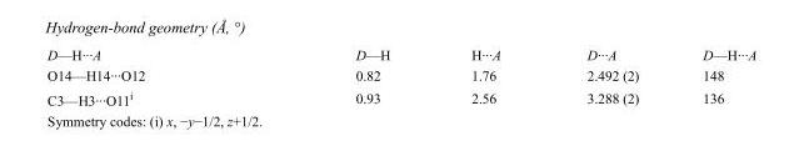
<table><tbody><tr><td>D—H···A</td><td>D—H</td><td>H···A</td><td>D···A</td><td>D—H···A</td></tr><tr><td>O14—H14···O12</td><td>0.82</td><td>1.76</td><td>2.492 (2)</td><td>148</td></tr><tr><td>C3—H3···O11<sup>i</sup></td><td>0.93</td><td>2.56</td><td>3.288 (2)</td><td>136</td></tr></tbody></table>